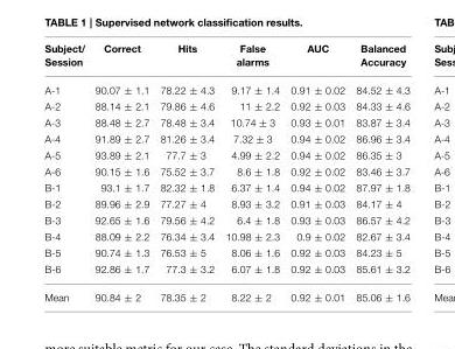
<table><thead><tr><td>Subject/ Session</td><td>Correct</td><td>Hits</td><td>False alarms</td><td>AUC</td><td>Balanced Accuracy</td></tr></thead><tbody><tr><td>A-1</td><td>90.07 ± 1.1</td><td>78.22 ± 4.3</td><td>9.17 ± 1.4</td><td>0.91 ± 0.02</td><td>84.52 ± 4.3</td></tr><tr><td>A-2</td><td>88.14 ± 2.1</td><td>79.86 ± 4.6</td><td>11 ± 2.2</td><td>0.92 ± 0.03</td><td>84.33 ± 4.6</td></tr><tr><td>A-3</td><td>88.48 ± 2.7</td><td>78.48 ± 3.4</td><td>10.74 ± 3</td><td>0.93 ± 0.01</td><td>83.87 ± 3.4</td></tr><tr><td>A-4</td><td>91.89 ± 2.7</td><td>81.26 ± 3.4</td><td>7.32 ± 3</td><td>0.94 ± 0.02</td><td>86.96 ± 3.4</td></tr><tr><td>A-5</td><td>93.89 ± 2.1</td><td>77.7 ± 3</td><td>4.99 ± 2.2</td><td>0.94 ± 0.02</td><td>86.35 ± 3</td></tr><tr><td>A-6</td><td>90.15 ± 1.6</td><td>75.52 ± 3.7</td><td>8.6 ± 1.8</td><td>0.92 ± 0.02</td><td>83.46 ± 3.7</td></tr><tr><td>B-1</td><td>93.1 ± 1.7</td><td>82.32 ± 1.8</td><td>6.37 ± 1.4</td><td>0.94 ± 0.02</td><td>87.97 ± 1.8</td></tr><tr><td>B-2</td><td>89.96 ± 2.9</td><td>77.27 ± 4</td><td>8.93 ± 3.2</td><td>0.91 ± 0.03</td><td>84.17 ± 4</td></tr><tr><td>B-3</td><td>92.65 ± 1.6</td><td>79.56 ± 4.2</td><td>6.4 ± 1.8</td><td>0.93 ± 0.03</td><td>86.57 ± 4.2</td></tr><tr><td>B-4</td><td>88.09 ± 2.2</td><td>76.34 ± 3.4</td><td>10.98 ± 2.3</td><td>0.9 ± 0.02</td><td>82.67 ± 3.4</td></tr><tr><td>B-5</td><td>90.74 ± 1.3</td><td>76.53 ± 5</td><td>8.06 ± 1.6</td><td>0.92 ± 0.03</td><td>84.23 ± 5</td></tr><tr><td>B-6</td><td>92.86 ± 1.7</td><td>77.3 ± 3.2</td><td>6.07 ± 1.8</td><td>0.92 ± 0.03</td><td>85.61 ± 3.2</td></tr><tr><td>Mean</td><td>90.84 ± 2</td><td>78.35 ± 2</td><td>8.22 ± 2</td><td>0.92 ± 0.01</td><td>85.06 ± 1.6</td></tr></tbody></table>